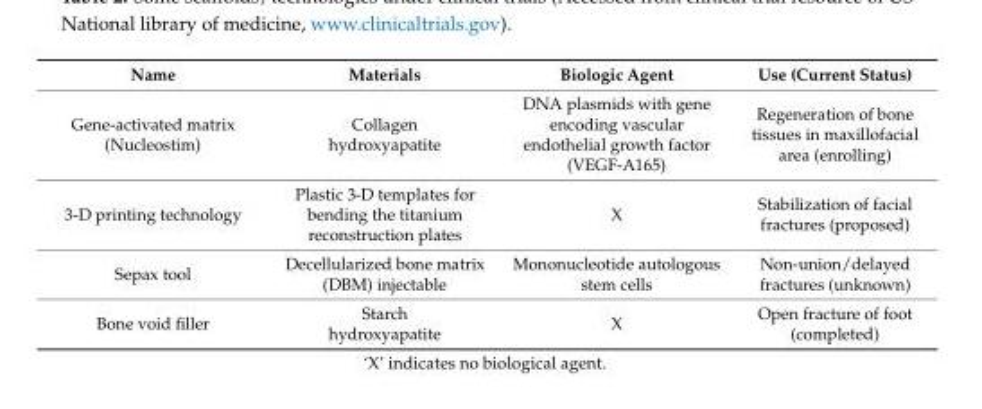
<table><thead><tr><td>Name</td><td>Materials</td><td>Biologic Agent</td><td>Use (Current Status)</td></tr></thead><tbody><tr><td>Gene-activated matrix (Nucleostim)</td><td>Collagen hydroxyapatite</td><td>DNA plasmids with gene encoding vascular endothelial growth factor (VEGF-A165)</td><td>Regeneration of bone tissues in maxillofacial area (enrolling)</td></tr><tr><td>3-D printing technology</td><td>Plastic 3-D templates for bending the titanium reconstruction plates</td><td>X</td><td>Stabilization of facial fractures (proposed)</td></tr><tr><td>Sepax tool</td><td>Decellularized bone matrix (DBM) injectable</td><td>Mononucleotide autologous stem cells</td><td>Non-union/delayed fractures (unknown)</td></tr><tr><td>Bone void filler</td><td>Starch hydroxyapatite</td><td>X</td><td>Open fracture of foot (completed)</td></tr></tbody></table>